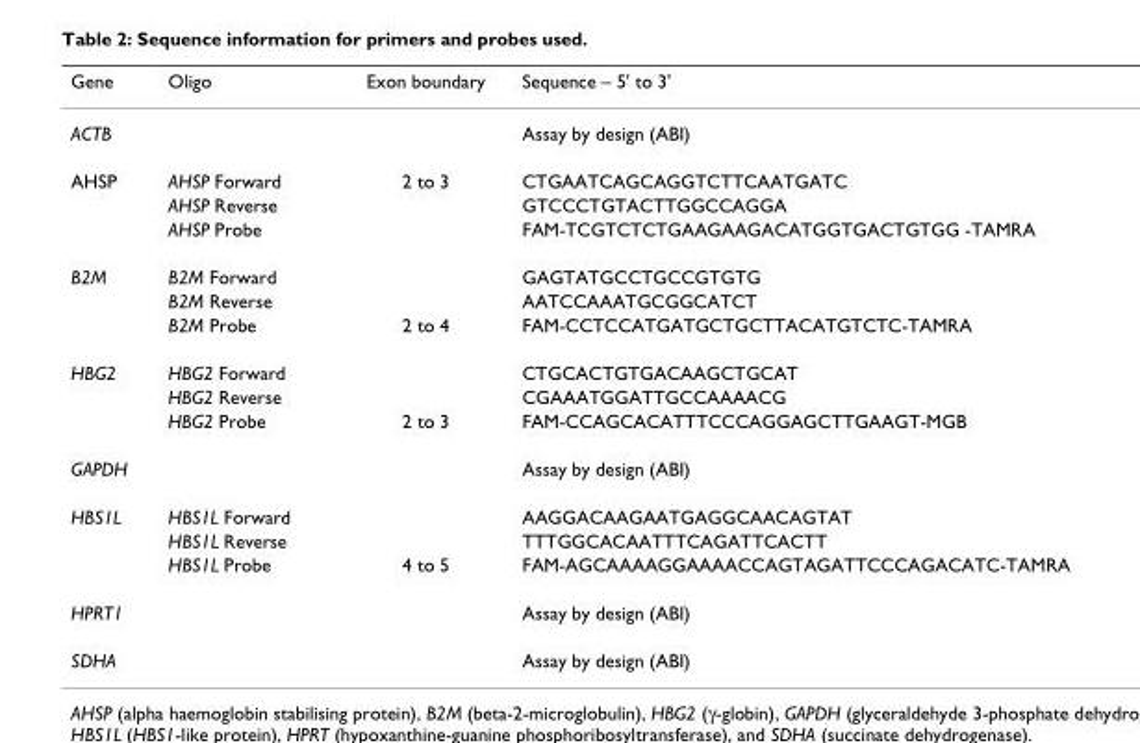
<table><thead><tr><td>Gene</td><td>Oligo</td><td>Exon boundary</td><td>Sequence – 5&#x27; to 3&#x27;</td></tr></thead><tbody><tr><td>ACTB</td><td></td><td></td><td>Assay by design (ABI)</td></tr><tr><td rowspan="3">AHSP</td><td>AHSP Forward</td><td>2 to 3</td><td>CTGAATCAGCAGGTCTTCAATGATC</td></tr><tr><td>AHSP Reverse</td><td></td><td>GTCCCTGTACTTGGCCAGGA</td></tr><tr><td>AHSP Probe</td><td></td><td>FAM-TCGTCTCTGAAGAAGACATGGTGACTGTGG -TAMRA</td></tr><tr><td rowspan="3">B2M</td><td>B2M Forward</td><td></td><td>GAGTATGCCTGCCGTGTG</td></tr><tr><td>B2M Reverse</td><td></td><td>AATCCAAATGCGGCATCT</td></tr><tr><td>B2M Probe</td><td>2 to 4</td><td>FAM-CCTCCATGATGCTGCTTACATGTCTC-TAMRA</td></tr><tr><td rowspan="3">HBG2</td><td>HBG2 Forward</td><td></td><td>CTGCACTGTGACAAGCTGCAT</td></tr><tr><td>HBG2 Reverse</td><td></td><td>CGAAATGGATTGCCAAAACG</td></tr><tr><td>HBG2 Probe</td><td>2 to 3</td><td>FAM-CCAGCACATTTCCCAGGAGCTTGAAGT-MGB</td></tr><tr><td>GAPDH</td><td></td><td></td><td>Assay by design (ABI)</td></tr><tr><td rowspan="3">HBS1L</td><td>HBS1L Forward</td><td></td><td>AAGGACAAGAATGAGGCAACAGTAT</td></tr><tr><td>HBS1L Reverse</td><td></td><td>TTTGGCACAATTTCAGATTCACTT</td></tr><tr><td>HBS1L Probe</td><td>4 to 5</td><td>FAM-AGCAAAAGGAAAACCAGTAGATTCCCAGACATC-TAMRA</td></tr><tr><td>HPRT1</td><td></td><td></td><td>Assay by design (ABI)</td></tr><tr><td>SDHA</td><td></td><td></td><td>Assay by design (ABI)</td></tr></tbody></table>